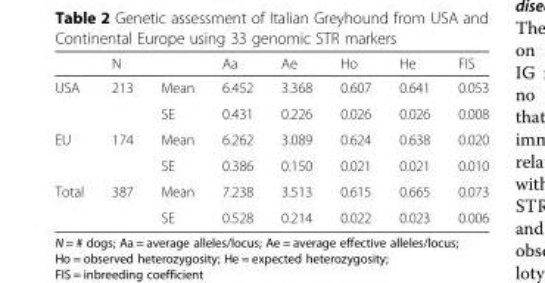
<table><thead><tr><td></td><td>N</td><td></td><td>Aa</td><td>Ae</td><td>Ho</td><td>He</td><td>FIS</td></tr></thead><tbody><tr><td rowspan="2">USA</td><td>213</td><td>Mean</td><td>6.452</td><td>3.368</td><td>0.607</td><td>0.641</td><td>0.053</td></tr><tr><td></td><td>SE</td><td>0.431</td><td>0.226</td><td>0.026</td><td>0.026</td><td>0.008</td></tr><tr><td rowspan="2">EU</td><td>174</td><td>Mean</td><td>6.262</td><td>3.089</td><td>0.624</td><td>0.638</td><td>0.020</td></tr><tr><td></td><td>SE</td><td>0.386</td><td>0.150</td><td>0.021</td><td>0.021</td><td>0.010</td></tr><tr><td rowspan="2">Total</td><td>387</td><td>Mean</td><td>7.238</td><td>3.513</td><td>0.615</td><td>0.665</td><td>0.073</td></tr><tr><td></td><td>SE</td><td>0.528</td><td>0.214</td><td>0.022</td><td>0.023</td><td>0.006</td></tr></tbody></table>